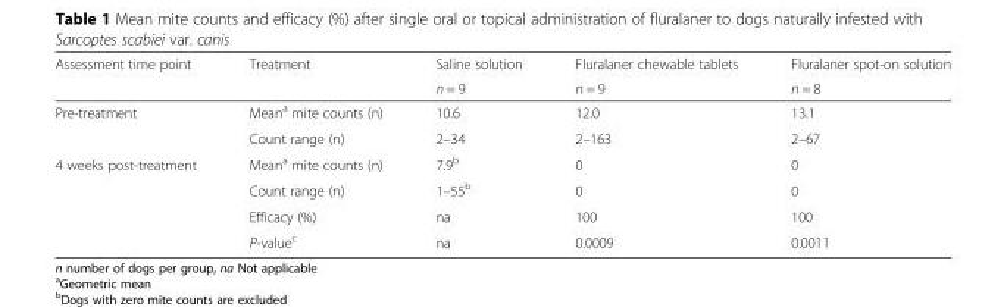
<table><thead><tr><td rowspan="2">Assessment time point</td><td rowspan="2">Treatment</td><td rowspan="2">Saline solution n = 9</td><td rowspan="2">Fluralaner chewable tablets n = 9</td><td rowspan="2">Fluralaner spot-on solution n = 8</td></tr><tr></tr></thead><tbody><tr><td rowspan="2">Pre-treatment</td><td>Mean<sup>a</sup> mite counts (n)</td><td>10.6</td><td>12.0</td><td>13.1</td></tr><tr><td>Count range (n)</td><td>2–34</td><td>2–163</td><td>2–67</td></tr><tr><td rowspan="4">4 weeks post-treatment</td><td>Mean<sup>a</sup> mite counts (n)</td><td>7.9<sup>b</sup></td><td>0</td><td>0</td></tr><tr><td>Count range (n)</td><td>1–55<sup>b</sup></td><td>0</td><td>0</td></tr><tr><td>Efficacy (%)</td><td>na</td><td>100</td><td>100</td></tr><tr><td>P-value<sup>c</sup></td><td>na</td><td>0.0009</td><td>0.0011</td></tr></tbody></table>